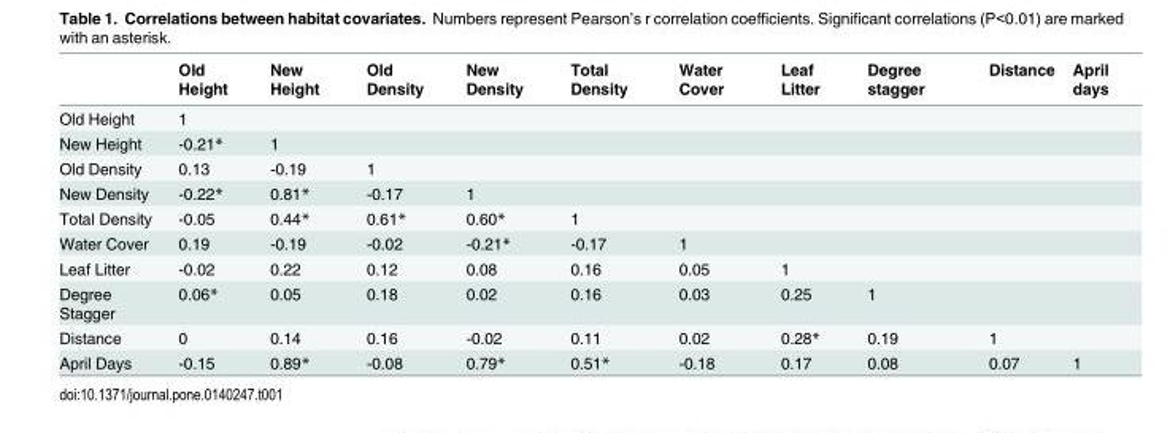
<table><thead><tr><td></td><td>Old Height</td><td>New Height</td><td>Old Density</td><td>New Density</td><td>Total Density</td><td>Water Cover</td><td>Leaf Litter</td><td>Degree stagger</td><td>Distance</td><td>April days</td></tr></thead><tbody><tr><td>Old Height</td><td>1</td><td></td><td></td><td></td><td></td><td></td><td></td><td></td><td></td><td></td></tr><tr><td>New Height</td><td>-0.21*</td><td>1</td><td></td><td></td><td></td><td></td><td></td><td></td><td></td><td></td></tr><tr><td>Old Density</td><td>0.13</td><td>-0.19</td><td>1</td><td></td><td></td><td></td><td></td><td></td><td></td><td></td></tr><tr><td>New Density</td><td>-0.22*</td><td>0.81*</td><td>-0.17</td><td>1</td><td></td><td></td><td></td><td></td><td></td><td></td></tr><tr><td>Total Density</td><td>-0.05</td><td>0.44*</td><td>0.61*</td><td>0.60*</td><td>1</td><td></td><td></td><td></td><td></td><td></td></tr><tr><td>Water Cover</td><td>0.19</td><td>-0.19</td><td>-0.02</td><td>-0.21*</td><td>-0.17</td><td>1</td><td></td><td></td><td></td><td></td></tr><tr><td>Leaf Litter</td><td>-0.02</td><td>0.22</td><td>0.12</td><td>0.08</td><td>0.16</td><td>0.05</td><td>1</td><td></td><td></td><td></td></tr><tr><td>Degree Stagger</td><td>0.06*</td><td>0.05</td><td>0.18</td><td>0.02</td><td>0.16</td><td>0.03</td><td>0.25</td><td>1</td><td></td><td></td></tr><tr><td>Distance</td><td>0</td><td>0.14</td><td>0.16</td><td>-0.02</td><td>0.11</td><td>0.02</td><td>0.28*</td><td>0.19</td><td>1</td><td></td></tr><tr><td>April Days</td><td>-0.15</td><td>0.89*</td><td>-0.08</td><td>0.79*</td><td>0.51*</td><td>-0.18</td><td>0.17</td><td>0.08</td><td>0.07</td><td>1</td></tr></tbody></table>